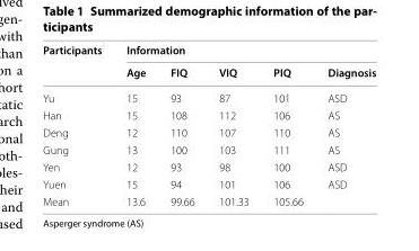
<table><thead><tr><td rowspan="2">Participants</td><td colspan="5">Information</td></tr><tr><td>Age</td><td>FIQ</td><td>VIQ</td><td>PIQ</td><td>Diagnosis</td></tr></thead><tbody><tr><td>Yu</td><td>15</td><td>93</td><td>87</td><td>101</td><td>ASD</td></tr><tr><td>Han</td><td>15</td><td>108</td><td>112</td><td>106</td><td>AS</td></tr><tr><td>Deng</td><td>12</td><td>110</td><td>107</td><td>110</td><td>AS</td></tr><tr><td>Gung</td><td>13</td><td>100</td><td>103</td><td>111</td><td>AS</td></tr><tr><td>Yen</td><td>12</td><td>93</td><td>98</td><td>100</td><td>ASD</td></tr><tr><td>Yuen</td><td>15</td><td>94</td><td>101</td><td>106</td><td>ASD</td></tr><tr><td>Mean</td><td>13.6</td><td>99.66</td><td>101.33</td><td>105.66</td><td></td></tr></tbody></table>